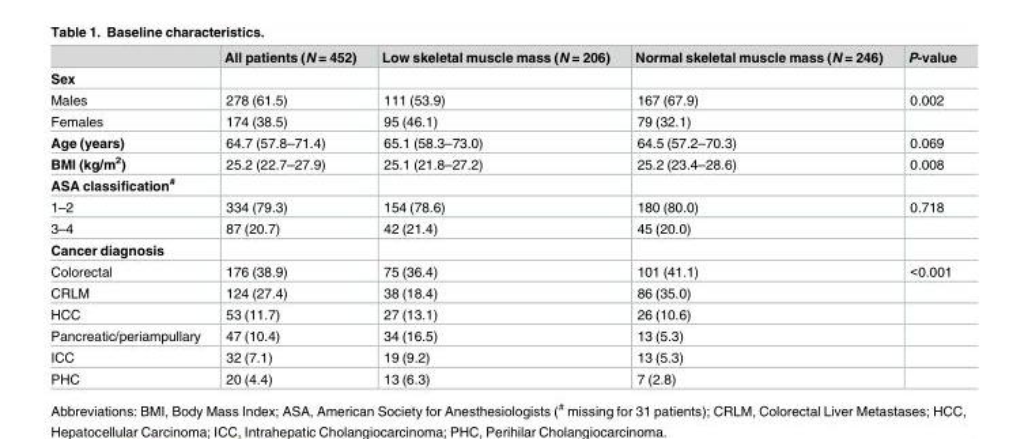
<table><thead><tr><td></td><td>All patients (N = 452)</td><td>Low skeletal muscle mass (N = 206)</td><td>Normal skeletal muscle mass (N = 246)</td><td>P-value</td></tr></thead><tbody><tr><td colspan="5">Sex</td></tr><tr><td>Males</td><td>278 (61.5)</td><td>111 (53.9)</td><td>167 (67.9)</td><td>0.002</td></tr><tr><td>Females</td><td>174 (38.5)</td><td>95 (46.1)</td><td>79 (32.1)</td><td></td></tr><tr><td>Age (years)</td><td>64.7 (57.8–71.4)</td><td>65.1 (58.3–73.0)</td><td>64.5 (57.2–70.3)</td><td>0.069</td></tr><tr><td>BMI (kg/m<sup>2</sup>)</td><td>25.2 (22.7–27.9)</td><td>25.1 (21.8–27.2)</td><td>25.2 (23.4–28.6)</td><td>0.008</td></tr><tr><td colspan="5">ASA classification<sup>#</sup></td></tr><tr><td>1–2</td><td>334 (79.3)</td><td>154 (78.6)</td><td>180 (80.0)</td><td>0.718</td></tr><tr><td>3–4</td><td>87 (20.7)</td><td>42 (21.4)</td><td>45 (20.0)</td><td></td></tr><tr><td colspan="5">Cancer diagnosis</td></tr><tr><td>Colorectal</td><td>176 (38.9)</td><td>75 (36.4)</td><td>101 (41.1)</td><td>&lt;0.001</td></tr><tr><td>CRLM</td><td>124 (27.4)</td><td>38 (18.4)</td><td>86 (35.0)</td><td></td></tr><tr><td>HCC</td><td>53 (11.7)</td><td>27 (13.1)</td><td>26 (10.6)</td><td></td></tr><tr><td>Pancreatic/periampullary</td><td>47 (10.4)</td><td>34 (16.5)</td><td>13 (5.3)</td><td></td></tr><tr><td>ICC</td><td>32 (7.1)</td><td>19 (9.2)</td><td>13 (5.3)</td><td></td></tr><tr><td>PHC</td><td>20 (4.4)</td><td>13 (6.3)</td><td>7 (2.8)</td><td></td></tr></tbody></table>